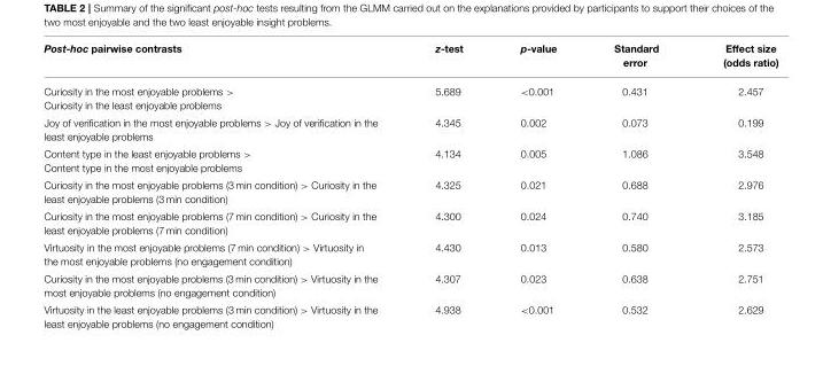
<table><thead><tr><td>Post-hoc pairwise contrasts</td><td>z-test</td><td>p-value</td><td>Standard error</td><td>Effect size (odds ratio)</td></tr></thead><tbody><tr><td>Curiosity in the most enjoyable problems &gt; Curiosity in the least enjoyable problems</td><td>5.689</td><td>&lt;0.001</td><td>0.431</td><td>2.457</td></tr><tr><td>Joy of verification in the most enjoyable problems &gt; Joy of verification in the least enjoyable problems</td><td>4.345</td><td>0.002</td><td>0.073</td><td>0.199</td></tr><tr><td>Content type in the least enjoyable problems &gt; Content type in the most enjoyable problems</td><td>4.134</td><td>0.005</td><td>1.086</td><td>3.548</td></tr><tr><td>Curiosity in the most enjoyable problems (3 min condition) &gt; Curiosity in the least enjoyable problems (3 min condition)</td><td>4.325</td><td>0.021</td><td>0.688</td><td>2.976</td></tr><tr><td>Curiosity in the most enjoyable problems (7 min condition) &gt; Curiosity in the least enjoyable problems (7 min condition)</td><td>4.300</td><td>0.024</td><td>0.740</td><td>3.185</td></tr><tr><td>Virtuosity in the most enjoyable problems (7 min condition) &gt; Virtuosity in the most enjoyable problems (no engagement condition)</td><td>4.430</td><td>0.013</td><td>0.580</td><td>2.573</td></tr><tr><td>Curiosity in the most enjoyable problems (3 min condition) &gt; Virtuosity in the most enjoyable problems (no engagement condition)</td><td>4.307</td><td>0.023</td><td>0.638</td><td>2.751</td></tr><tr><td>Virtuosity in the least enjoyable problems (3 min condition) &gt; Virtuosity in the least enjoyable problems (no engagement condition)</td><td>4.938</td><td>&lt;0.001</td><td>0.532</td><td>2.629</td></tr></tbody></table>